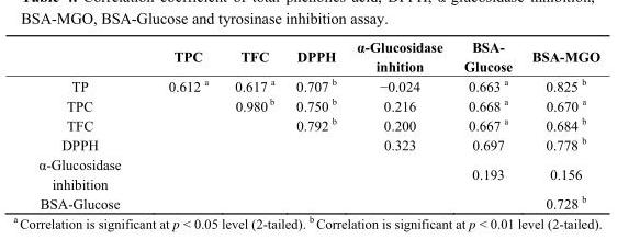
<table><thead><tr><td></td><td>TPC</td><td>TFC</td><td>DPPH</td><td>α-Glucosidase inhition</td><td>BSA- Glucose</td><td>BSA-MGO</td></tr></thead><tbody><tr><td>TP</td><td>0.612 a</td><td>0.617 a</td><td>0.707 b</td><td>−0.024</td><td>0.663 a</td><td>0.825 b</td></tr><tr><td>TPC</td><td></td><td>0.980 b</td><td>0.750 b</td><td>0.216</td><td>0.668 a</td><td>0.670 a</td></tr><tr><td>TFC</td><td></td><td></td><td>0.792 b</td><td>0.200</td><td>0.667 a</td><td>0.684 b</td></tr><tr><td>DPPH</td><td></td><td></td><td></td><td>0.323</td><td>0.697</td><td>0.778 b</td></tr><tr><td>α-Glucosidase inhibition</td><td></td><td></td><td></td><td></td><td>0.193</td><td>0.156</td></tr><tr><td>BSA-Glucose</td><td></td><td></td><td></td><td></td><td></td><td>0.728 b</td></tr></tbody></table>